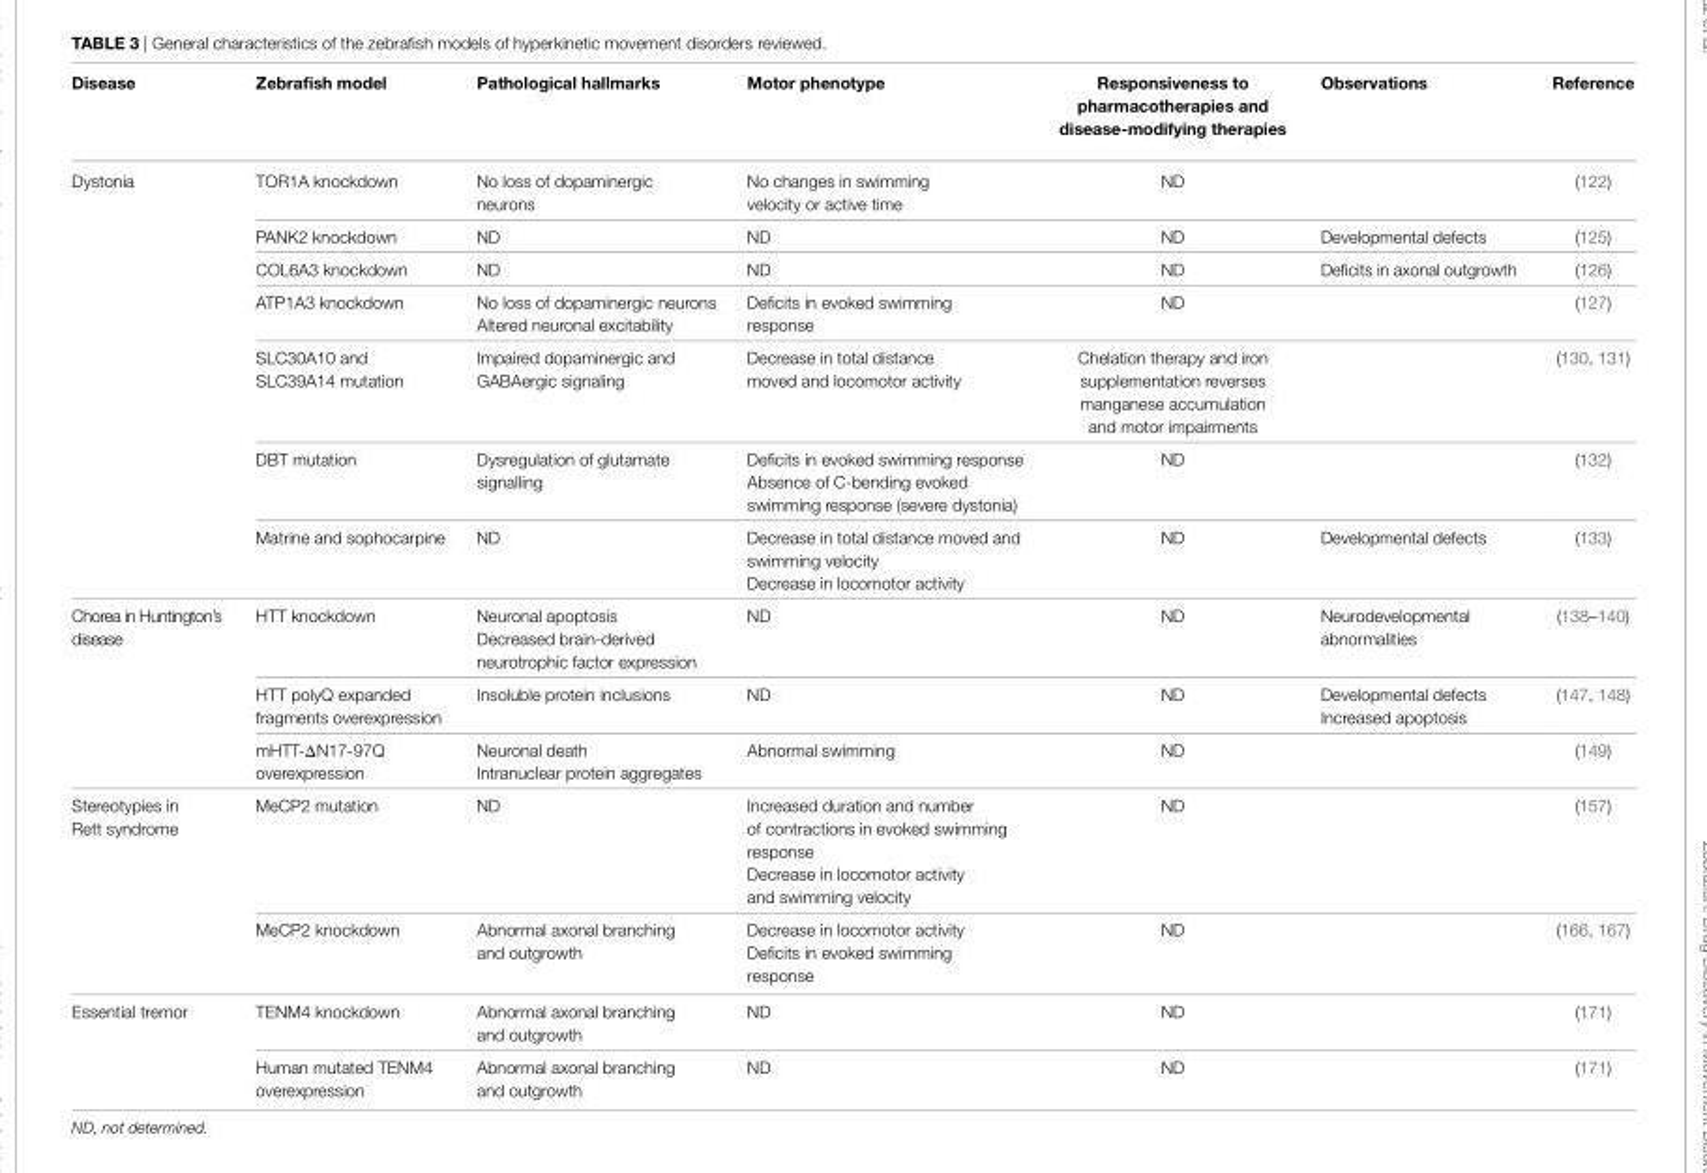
<table><thead><tr><td>Disease</td><td>Zebrafish model</td><td>Pathological hallmarks</td><td>motor phenotype</td><td>Responsiveness to pharmacotherapies and disease-modifying therapies</td><td>Observations</td><td>Reference</td></tr></thead><tbody><tr><td rowspan="7">Dystonia</td><td>TOR1A knockdown</td><td>No loss of dopaminergic neurons</td><td>No changes in swimming velocity or active time</td><td>ND</td><td></td><td>(122)</td></tr><tr><td>PANK2 knockdown</td><td>ND</td><td>ND</td><td>ND</td><td>Developmental defects</td><td>(125)</td></tr><tr><td>COL6A3 knockdown</td><td>ND</td><td>ND</td><td>ND</td><td>Deficits in axonal outgrowth</td><td>(126)</td></tr><tr><td>ATP1A3 knockdown</td><td>No loss of dopaminergic neurons Altered neuronal excitability</td><td>Deficits in evoked swimming response</td><td>ND</td><td></td><td>(127)</td></tr><tr><td>SLC30A10 and SLC39A14 mutation</td><td>Impaired dopaminergic and GABAergic signaling</td><td>Decrease in total distance moved and locomotor activity</td><td>Chelation therapy and iron supplementation reverses manganese accumulation and motor impairments</td><td></td><td>(130, 131)</td></tr><tr><td>DBT mutation</td><td>Dysregulation of glutamate signalling</td><td>Deficits in evoked swimming response Absence of C-bending evoked swimming response (severe dystonia)</td><td>ND</td><td></td><td>(132)</td></tr><tr><td>Matrine and sophocarpine</td><td>ND</td><td>Decrease in total distance moved and swimming velocity Decrease in locomotor activity</td><td>ND</td><td>Developmental defects</td><td>(133)</td></tr><tr><td rowspan="3">Chorea in Huntington’s disease</td><td>HTT knockdown</td><td>Neuronal apoptosis Decreased brain-derived neurotrophic factor expression</td><td>ND</td><td>ND</td><td>Neurodevelopmental abnormalities</td><td>(138–140)</td></tr><tr><td>HTT polyQ expanded fragments overexpression</td><td>Insoluble protein inclusions</td><td>ND</td><td>ND</td><td>Developmental defects Increased apoptosis</td><td>(147, 148)</td></tr><tr><td>mHTT-ΔN17-97Q overexpression</td><td>Neuronal death Intranuclear protein aggregates</td><td>Abnormal swimming</td><td>ND</td><td></td><td>(149)</td></tr><tr><td rowspan="2">Stereotypies in Rett syndrome</td><td>MeCP2 mutation</td><td>ND</td><td>Increased duration and number of contractions in evoked swimming response Decrease in locomotor activity and swimming velocity</td><td>ND</td><td></td><td>(157)</td></tr><tr><td>MeCP2 knockdown</td><td>Abnormal axonal branching and outgrowth</td><td>Decrease in locomotor activity Deficits in evoked swimming response</td><td>ND</td><td></td><td>(166, 167)</td></tr><tr><td rowspan="2">Essential tremor</td><td>TENM4 knockdown</td><td>Abnormal axonal branching and outgrowth</td><td>ND</td><td>ND</td><td></td><td>(171)</td></tr><tr><td>Human mutated TENM4 overexpression</td><td>Abnormal axonal branching and outgrowth</td><td>ND</td><td>ND</td><td></td><td>(171)</td></tr></tbody></table>